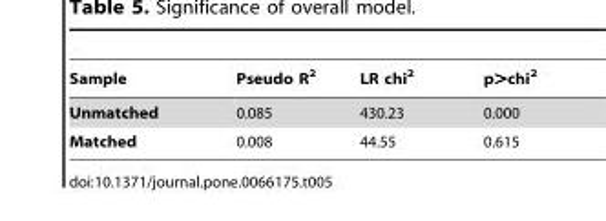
<table><thead><tr><td>Sample</td><td>Pseudo R<sup>2</sup></td><td>LR chi<sup>2</sup></td><td>p&gt;chi<sup>2</sup></td></tr></thead><tbody><tr><td>Unmatched</td><td>0.085</td><td>430.23</td><td>0.000</td></tr><tr><td>Matched</td><td>0.008</td><td>44.55</td><td>0.615</td></tr></tbody></table>